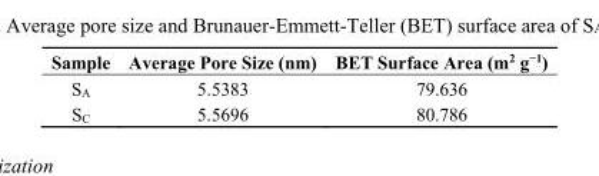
<table><thead><tr><td>Sample</td><td>Average Pore Size (nm)</td><td>BET Surface Area (m<sup>2</sup> g<sup>−1</sup>)</td></tr></thead><tbody><tr><td>S<sub>A</sub></td><td>5.5383</td><td>79.636</td></tr><tr><td>S<sub>C</sub></td><td>5.5696</td><td>80.786</td></tr></tbody></table>